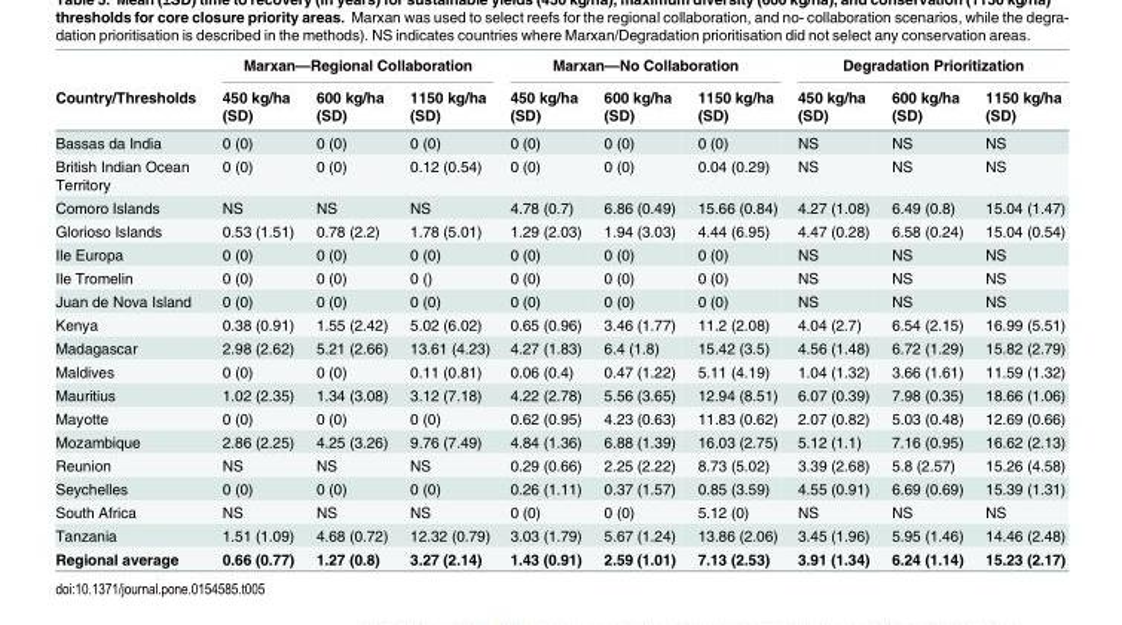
<table><thead><tr><td rowspan="2">Country/Thresholds</td><td colspan="3">Marxan—Regional Collaboration</td><td colspan="3">Marxan—No Collaboration</td><td colspan="3">Degradation Prioritization</td></tr><tr><td>450 kg/ha (SD)</td><td>600 kg/ha (SD)</td><td>1150 kg/ha (SD)</td><td>450 kg/ha (SD)</td><td>600 kg/ha (SD)</td><td>1150 kg/ha (SD)</td><td>450 kg/ha (SD)</td><td>600 kg/ha (SD)</td><td>1150 kg/ha (SD)</td></tr></thead><tbody><tr><td>Bassas da India</td><td>0 (0)</td><td>0 (0)</td><td>0 (0)</td><td>0 (0)</td><td>0 (0)</td><td>0 (0)</td><td>NS</td><td>NS</td><td>NS</td></tr><tr><td>British Indian Ocean Territory</td><td>0 (0)</td><td>0 (0)</td><td>0.12 (0.54)</td><td>0 (0)</td><td>0 (0)</td><td>0.04 (0.29)</td><td>NS</td><td>NS</td><td>NS</td></tr><tr><td>Comoro Islands</td><td>NS</td><td>NS</td><td>NS</td><td>4.78 (0.7)</td><td>6.86 (0.49)</td><td>15.66 (0.84)</td><td>4.27 (1.08)</td><td>6.49 (0.8)</td><td>15.04 (1.47)</td></tr><tr><td>Glorioso Islands</td><td>0.53 (1.51)</td><td>0.78 (2.2)</td><td>1.78 (5.01)</td><td>1.29 (2.03)</td><td>1.94 (3.03)</td><td>4.44 (6.95)</td><td>4.47 (0.28)</td><td>6.58 (0.24)</td><td>15.04 (0.54)</td></tr><tr><td>Ile Europa</td><td>0 (0)</td><td>0 (0)</td><td>0 (0)</td><td>0 (0)</td><td>0 (0)</td><td>0 (0)</td><td>NS</td><td>NS</td><td>NS</td></tr><tr><td>Ile Tromelin</td><td>0 (0)</td><td>0 (0)</td><td>0 ()</td><td>0 (0)</td><td>0 (0)</td><td>0 (0)</td><td>NS</td><td>NS</td><td>NS</td></tr><tr><td>Juan de Nova Island</td><td>0 (0)</td><td>0 (0)</td><td>0 (0)</td><td>0 (0)</td><td>0 (0)</td><td>0 (0)</td><td>NS</td><td>NS</td><td>NS</td></tr><tr><td>Kenya</td><td>0.38 (0.91)</td><td>1.55 (2.42)</td><td>5.02 (6.02)</td><td>0.65 (0.96)</td><td>3.46 (1.77)</td><td>11.2 (2.08)</td><td>4.04 (2.7)</td><td>6.54 (2.15)</td><td>16.99 (5.51)</td></tr><tr><td>Madagascar</td><td>2.98 (2.62)</td><td>5.21 (2.66)</td><td>13.61 (4.23)</td><td>4.27 (1.83)</td><td>6.4 (1.8)</td><td>15.42 (3.5)</td><td>4.56 (1.48)</td><td>6.72 (1.29)</td><td>15.82 (2.79)</td></tr><tr><td>Maldives</td><td>0 (0)</td><td>0 (0)</td><td>0.11 (0.81)</td><td>0.06 (0.4)</td><td>0.47 (1.22)</td><td>5.11 (4.19)</td><td>1.04 (1.32)</td><td>3.66 (1.61)</td><td>11.59 (1.32)</td></tr><tr><td>Mauritius</td><td>1.02 (2.35)</td><td>1.34 (3.08)</td><td>3.12 (7.18)</td><td>4.22 (2.78)</td><td>5.56 (3.65)</td><td>12.94 (8.51)</td><td>6.07 (0.39)</td><td>7.98 (0.35)</td><td>18.66 (1.06)</td></tr><tr><td>Mayotte</td><td>0 (0)</td><td>0 (0)</td><td>0 (0)</td><td>0.62 (0.95)</td><td>4.23 (0.63)</td><td>11.83 (0.62)</td><td>2.07 (0.82)</td><td>5.03 (0.48)</td><td>12.69 (0.66)</td></tr><tr><td>Mozambique</td><td>2.86 (2.25)</td><td>4.25 (3.26)</td><td>9.76 (7.49)</td><td>4.84 (1.36)</td><td>6.88 (1.39)</td><td>16.03 (2.75)</td><td>5.12 (1.1)</td><td>7.16 (0.95)</td><td>16.62 (2.13)</td></tr><tr><td>Reunion</td><td>NS</td><td>NS</td><td>NS</td><td>0.29 (0.66)</td><td>2.25 (2.22)</td><td>8.73 (5.02)</td><td>3.39 (2.68)</td><td>5.8 (2.57)</td><td>15.26 (4.58)</td></tr><tr><td>Seychelles</td><td>0 (0)</td><td>0 (0)</td><td>0 (0)</td><td>0.26 (1.11)</td><td>0.37 (1.57)</td><td>0.85 (3.59)</td><td>4.55 (0.91)</td><td>6.69 (0.69)</td><td>15.39 (1.31)</td></tr><tr><td>South Africa</td><td>NS</td><td>NS</td><td>NS</td><td>0 (0)</td><td>0 (0)</td><td>5.12 (0)</td><td>NS</td><td>NS</td><td>NS</td></tr><tr><td>Tanzania</td><td>1.51 (1.09)</td><td>4.68 (0.72)</td><td>12.32 (0.79)</td><td>3.03 (1.79)</td><td>5.67 (1.24)</td><td>13.86 (2.06)</td><td>3.45 (1.96)</td><td>5.95 (1.46)</td><td>14.46 (2.48)</td></tr><tr><td>Regional average</td><td>0.66 (0.77)</td><td>1.27 (0.8)</td><td>3.27 (2.14)</td><td>1.43 (0.91)</td><td>2.59 (1.01)</td><td>7.13 (2.53)</td><td>3.91 (1.34)</td><td>6.24 (1.14)</td><td>15.23 (2.17)</td></tr></tbody></table>